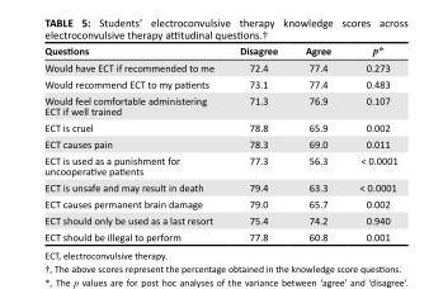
<table><thead><tr><td>Questions</td><td>Disagree</td><td>Agree</td><td>p*</td></tr></thead><tbody><tr><td>Would have ECT if recommended to me</td><td>72.4</td><td>77.4</td><td>0.273</td></tr><tr><td>Would recommend ECT to my patients</td><td>73.1</td><td>77.4</td><td>0.483</td></tr><tr><td>Would feel comfortable administering ECT if well trained</td><td>71.3</td><td>76.9</td><td>0.107</td></tr><tr><td>ECT is cruel</td><td>78.8</td><td>65.9</td><td>0.002</td></tr><tr><td>ECT causes pain</td><td>78.3</td><td>69.0</td><td>0.011</td></tr><tr><td>ECT is used as a punishment for uncooperative patients</td><td>77.3</td><td>56.3</td><td>&lt; 0.0001</td></tr><tr><td>ECT is unsafe and may result in death</td><td>79.4</td><td>63.3</td><td>&lt; 0.0001</td></tr><tr><td>ECT causes permanent brain damage</td><td>79.0</td><td>65.7</td><td>0.002</td></tr><tr><td>ECT should only be used as a last resort</td><td>75.4</td><td>74.2</td><td>0.940</td></tr><tr><td>ECT should be illegal to perform</td><td>77.8</td><td>60.8</td><td>0.001</td></tr></tbody></table>